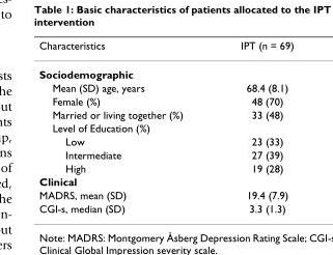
<table><thead><tr><td>Characteristics</td><td>IPT (n = 69)</td></tr></thead><tbody><tr><td colspan="2">Sociodemographic</td></tr><tr><td>Mean (SD) age, years</td><td>68.4 (8.1)</td></tr><tr><td>Female (%)</td><td>48 (70)</td></tr><tr><td>Married or living together (%)</td><td>33 (48)</td></tr><tr><td colspan="2">Level of Education (%)</td></tr><tr><td>Low</td><td>23 (33)</td></tr><tr><td>Intermediate</td><td>27 (39)</td></tr><tr><td>High</td><td>19 (28)</td></tr><tr><td colspan="2">Clinical</td></tr><tr><td>MADRS, mean (SD)</td><td>19.4 (7.9)</td></tr><tr><td>CGI-s, median (SD)</td><td>3.3 (1.3)</td></tr></tbody></table>